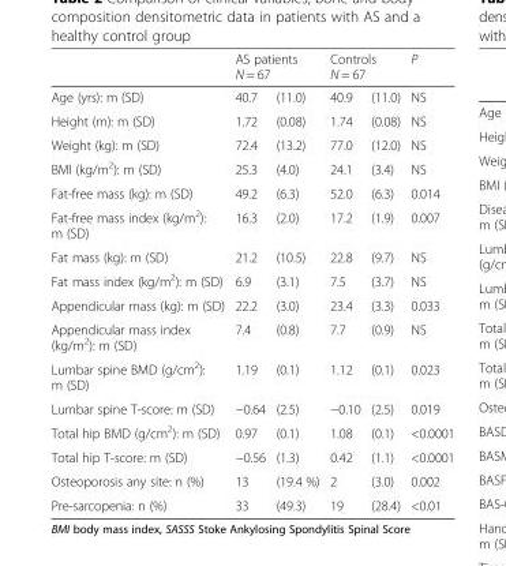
<table><thead><tr><td rowspan="2">Age (yrs): m (SD)</td><td colspan="2">AS patients N = 67</td><td colspan="2">Controls N = 67</td><td rowspan="2">P NS</td></tr><tr><td>40.7</td><td>(11.0)</td><td>40.9</td><td>(11.0)</td></tr></thead><tbody><tr><td>Height (m): m (SD)</td><td>1.72</td><td>(0.08)</td><td>1.74</td><td>(0.08)</td><td>NS</td></tr><tr><td>Weight (kg): m (SD)</td><td>72.4</td><td>(13.2)</td><td>77.0</td><td>(12.0)</td><td>NS</td></tr><tr><td>BMI (kg/m<sup>2</sup>): m (SD)</td><td>25.3</td><td>(4.0)</td><td>24.1</td><td>(3.4)</td><td>NS</td></tr><tr><td>Fat-free mass (kg): m (SD)</td><td>49.2</td><td>(6.3)</td><td>52.0</td><td>(6.3)</td><td>0.014</td></tr><tr><td>Fat-free mass index (kg/m<sup>2</sup>): m (SD)</td><td>16.3</td><td>(2.0)</td><td>17.2</td><td>(1.9)</td><td>0.007</td></tr><tr><td>Fat mass (kg): m (SD)</td><td>21.2</td><td>(10.5)</td><td>22.8</td><td>(9.7)</td><td>NS</td></tr><tr><td>Fat mass index (kg/m<sup>2</sup>): m (SD)</td><td>6.9</td><td>(3.1)</td><td>7.5</td><td>(3.7)</td><td>NS</td></tr><tr><td>Appendicular mass (kg): m (SD)</td><td>22.2</td><td>(3.0)</td><td>23.4</td><td>(3.3)</td><td>0.033</td></tr><tr><td>Appendicular mass index (kg/m<sup>2</sup>): m (SD)</td><td>7.4</td><td>(0.8)</td><td>7.7</td><td>(0.9)</td><td>NS</td></tr><tr><td>Lumbar spine BMD (g/cm<sup>2</sup>): m (SD)</td><td>1.19</td><td>(0.1)</td><td>1.12</td><td>(0.1)</td><td>0.023</td></tr><tr><td>Lumbar spine T-score: m (SD)</td><td>−0.64</td><td>(2.5)</td><td>−0.10</td><td>(2.5)</td><td>0.019</td></tr><tr><td>Total hip BMD (g/cm<sup>2</sup>): m (SD)</td><td>0.97</td><td>(0.1)</td><td>1.08</td><td>(0.1)</td><td>&lt;0.0001</td></tr><tr><td>Total hip T-score: m (SD)</td><td>−0.56</td><td>(1.3)</td><td>0.42</td><td>(1.1)</td><td>&lt;0.0001</td></tr><tr><td>Osteoporosis any site: n (%)</td><td>13</td><td>(19.4 %)</td><td>2</td><td>(3.0)</td><td>0.002</td></tr><tr><td>Pre-sarcopenia: n (%)</td><td>33</td><td>(49.3)</td><td>19</td><td>(28.4)</td><td>&lt;0.01</td></tr></tbody></table>